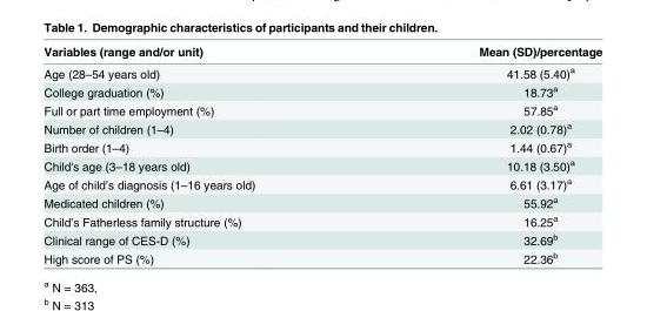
<table><thead><tr><td>Variables (range and/or unit)</td><td>Mean (SD)/percentage</td></tr></thead><tbody><tr><td>Age (28–54 years old)</td><td>41.58 (5.40)<sup>a</sup></td></tr><tr><td>College graduation (%)</td><td>18.73<sup>a</sup></td></tr><tr><td>Full or part time employment (%)</td><td>57.85<sup>a</sup></td></tr><tr><td>Number of children (1–4)</td><td>2.02 (0.78)<sup>a</sup></td></tr><tr><td>Birth order (1–4)</td><td>1.44 (0.67)<sup>a</sup></td></tr><tr><td>Child&#x27;s age (3–18 years old)</td><td>10.18 (3.50)<sup>a</sup></td></tr><tr><td>Age of child’s diagnosis (1–16 years old)</td><td>6.61 (3.17)<sup>a</sup></td></tr><tr><td>Medicated children (%)</td><td>55.92<sup>a</sup></td></tr><tr><td>Child’s Fatherless family structure (%)</td><td>16.25<sup>a</sup></td></tr><tr><td>Clinical range of CES-D (%)</td><td>32.69<sup>b</sup></td></tr><tr><td>High score of PS (%)</td><td>22.36<sup>b</sup></td></tr></tbody></table>